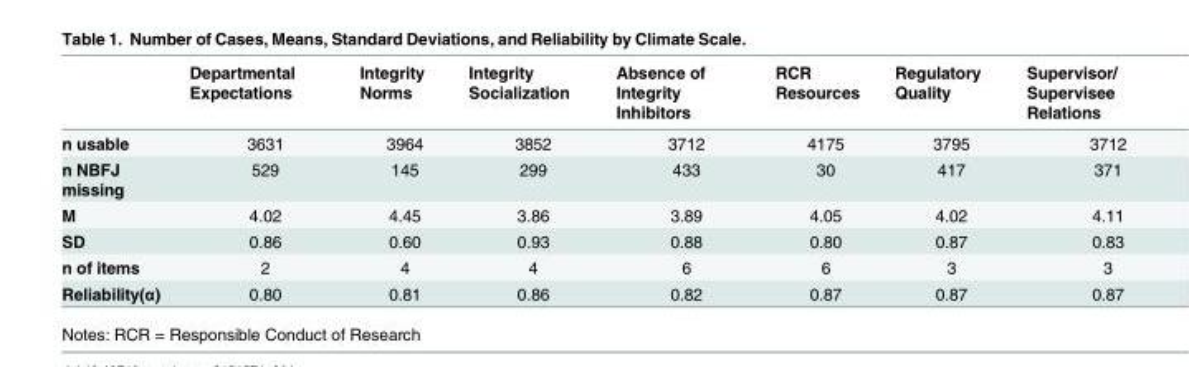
<table><thead><tr><td></td><td>Departmental Expectations</td><td>Integrity Norms</td><td>Integrity Socialization</td><td>Absence of Integrity Inhibitors</td><td>RCR Resources</td><td>Regulatory Quality</td><td>Supervisor/ Supervisee Relations</td></tr></thead><tbody><tr><td>n usable</td><td>3631</td><td>3964</td><td>3852</td><td>3712</td><td>4175</td><td>3795</td><td>3712</td></tr><tr><td>n NBFJ missing</td><td>529</td><td>145</td><td>299</td><td>433</td><td>30</td><td>417</td><td>371</td></tr><tr><td>M</td><td>4.02</td><td>4.45</td><td>3.86</td><td>3.89</td><td>4.05</td><td>4.02</td><td>4.11</td></tr><tr><td>SD</td><td>0.86</td><td>0.60</td><td>0.93</td><td>0.88</td><td>0.80</td><td>0.87</td><td>0.83</td></tr><tr><td>n of items</td><td>2</td><td>4</td><td>4</td><td>6</td><td>6</td><td>3</td><td>3</td></tr><tr><td>Reliability(α)</td><td>0.80</td><td>0.81</td><td>0.86</td><td>0.82</td><td>0.87</td><td>0.87</td><td>0.87</td></tr></tbody></table>